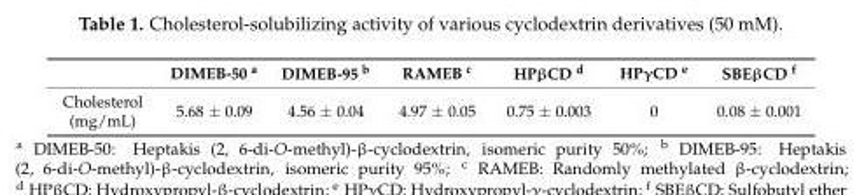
<table><thead><tr><td></td><td>DIMEB-50 a</td><td>DIMEB-95 b</td><td>RAMEB c</td><td>HPβCD d</td><td>HPγCD e</td><td>SBEβCD f</td></tr></thead><tbody><tr><td>Cholesterol (mg/mL)</td><td>5.68 ± 0.09</td><td>4.56 ± 0.04</td><td>4.97 ± 0.05</td><td>0.75 ± 0.003</td><td>0</td><td>0.08 ± 0.001</td></tr></tbody></table>